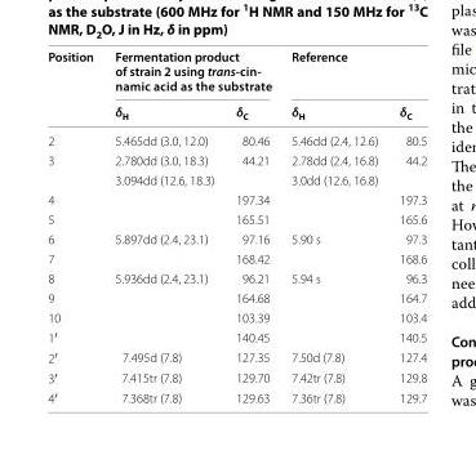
<table><thead><tr><td rowspan="2">Position</td><td colspan="2">Fermentation product of strain 2 using trans‑cin‑ namic acid as the substrate</td><td colspan="2">Reference</td></tr><tr><td>δ<sub>H</sub></td><td>δ<sub>C</sub></td><td>δ<sub>H</sub></td><td>δ<sub>C</sub></td></tr></thead><tbody><tr><td>2</td><td>5.465dd (3.0, 12.0)</td><td>80.46</td><td>5.46dd (2.4, 12.6)</td><td>80.5</td></tr><tr><td rowspan="2">3</td><td>2.780dd (3.0, 18.3)</td><td rowspan="2">44.21</td><td>2.78dd (2.4, 16.8)</td><td rowspan="2">44.2</td></tr><tr><td>3.094dd (12.6, 18.3)</td><td>3.0dd (12.6, 16.8)</td></tr><tr><td>4</td><td></td><td>197.34</td><td></td><td>197.3</td></tr><tr><td>5</td><td></td><td>165.51</td><td></td><td>165.6</td></tr><tr><td>6</td><td>5.897dd (2.4, 23.1)</td><td>97.16</td><td>5.90 s</td><td>97.3</td></tr><tr><td>7</td><td></td><td>168.42</td><td></td><td>168.6</td></tr><tr><td>8</td><td>5.936dd (2.4, 23.1)</td><td>96.21</td><td>5.94 s</td><td>96.3</td></tr><tr><td>9</td><td></td><td>164.68</td><td></td><td>164.7</td></tr><tr><td>10</td><td></td><td>103.39</td><td></td><td>103.4</td></tr><tr><td>1′</td><td></td><td>140.45</td><td></td><td>140.5</td></tr><tr><td>2′</td><td>7.495d (7.8)</td><td>127.35</td><td>7.50d (7.8)</td><td>127.4</td></tr><tr><td>3′</td><td>7.415tr (7.8)</td><td>129.70</td><td>7.42tr (7.8)</td><td>129.8</td></tr><tr><td>4′</td><td>7.368tr (7.8)</td><td>129.63</td><td>7.36tr (7.8)</td><td>129.7</td></tr></tbody></table>